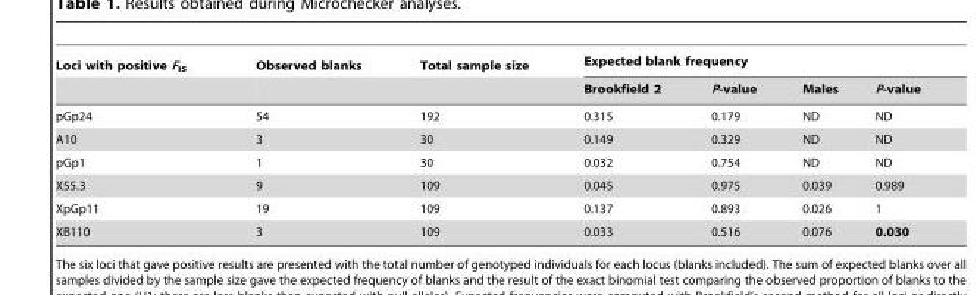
<table><thead><tr><td rowspan="2">Loci with positive F<sub>IS</sub></td><td rowspan="2">Observed blanks</td><td rowspan="2">Total sample size</td><td colspan="4">Expected blank frequency</td></tr><tr><td>Brookfield 2</td><td>P-value</td><td>Males</td><td>P-value</td></tr></thead><tbody><tr><td>pGp24</td><td>54</td><td>192</td><td>0.315</td><td>0.179</td><td>ND</td><td>ND</td></tr><tr><td>A10</td><td>3</td><td>30</td><td>0.149</td><td>0.329</td><td>ND</td><td>ND</td></tr><tr><td>pGp1</td><td>1</td><td>30</td><td>0.032</td><td>0.754</td><td>ND</td><td>ND</td></tr><tr><td>X55.3</td><td>9</td><td>109</td><td>0.045</td><td>0.975</td><td>0.039</td><td>0.989</td></tr><tr><td>XpGp11</td><td>19</td><td>109</td><td>0.137</td><td>0.893</td><td>0.026</td><td>1</td></tr><tr><td>XB110</td><td>3</td><td>109</td><td>0.033</td><td>0.516</td><td>0.076</td><td>0.030</td></tr></tbody></table>